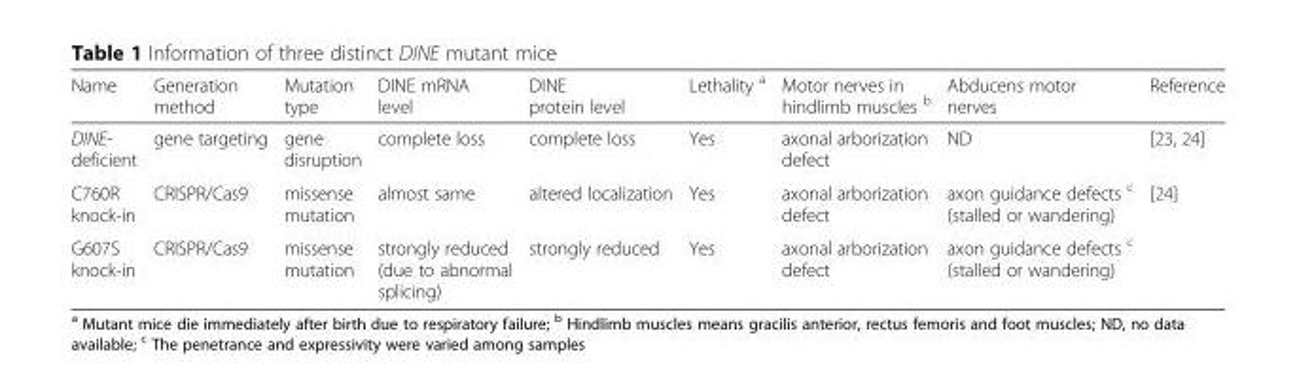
<table><thead><tr><td>Name</td><td>Generation method</td><td>Mutation type</td><td>DINE mRNA level</td><td>DINE protein level</td><td>Lethality <sup>a</sup></td><td>Motor nerves in hindlimb muscles <sup>b</sup></td><td>Abducens motor nerves</td><td>Reference</td></tr></thead><tbody><tr><td>DINE- deficient</td><td>gene targeting</td><td>gene disruption</td><td>complete loss</td><td>complete loss</td><td>Yes</td><td>axonal arborization defect</td><td>ND</td><td>[23, 24]</td></tr><tr><td>C760R knock-in</td><td>CRISPR/Cas9</td><td>missense mutation</td><td>almost same</td><td>altered localization</td><td>Yes</td><td>axonal arborization defect</td><td>axon guidance defects <sup>c</sup> (stalled or wandering)</td><td>[24]</td></tr><tr><td>G607S knock-in</td><td>CRISPR/Cas9</td><td>missense mutation</td><td>strongly reduced (due to abnormal splicing)</td><td>strongly reduced</td><td>Yes</td><td>axonal arborization defect</td><td>axon guidance defects <sup>c</sup> (stalled or wandering)</td><td></td></tr></tbody></table>